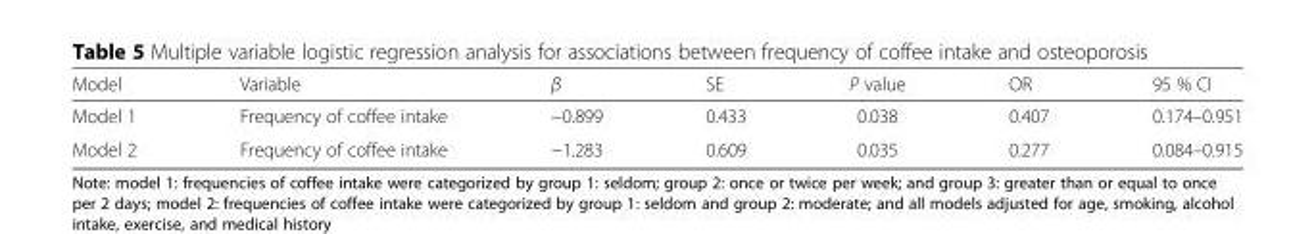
<table><thead><tr><td>Model</td><td>Variable</td><td>β</td><td>SE</td><td>P value</td><td>OR</td><td>95 % CI</td></tr></thead><tbody><tr><td>Model 1</td><td>Frequency of coffee intake</td><td>−0.899</td><td>0.433</td><td>0.038</td><td>0.407</td><td>0.174–0.951</td></tr><tr><td>Model 2</td><td>Frequency of coffee intake</td><td>−1.283</td><td>0.609</td><td>0.035</td><td>0.277</td><td>0.084–0.915</td></tr></tbody></table>